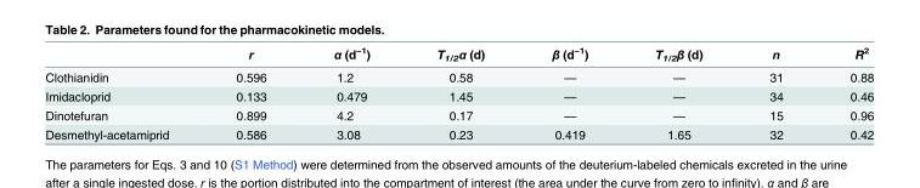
<table><thead><tr><td></td><td>r</td><td>α (d<sup>−1</sup>)</td><td>T<sub>1/2</sub>α (d)</td><td>β (d<sup>−1</sup>)</td><td>T<sub>1/2</sub>β (d)</td><td>n</td><td>R<sup>2</sup></td></tr></thead><tbody><tr><td>Clothianidin</td><td>0.596</td><td>1.2</td><td>0.58</td><td>—</td><td>—</td><td>31</td><td>0.88</td></tr><tr><td>Imidacloprid</td><td>0.133</td><td>0.479</td><td>1.45</td><td>—</td><td>—</td><td>34</td><td>0.46</td></tr><tr><td>Dinotefuran</td><td>0.899</td><td>4.2</td><td>0.17</td><td>—</td><td>—</td><td>15</td><td>0.96</td></tr><tr><td>Desmethyl-acetamiprid</td><td>0.586</td><td>3.08</td><td>0.23</td><td>0.419</td><td>1.65</td><td>32</td><td>0.42</td></tr></tbody></table>